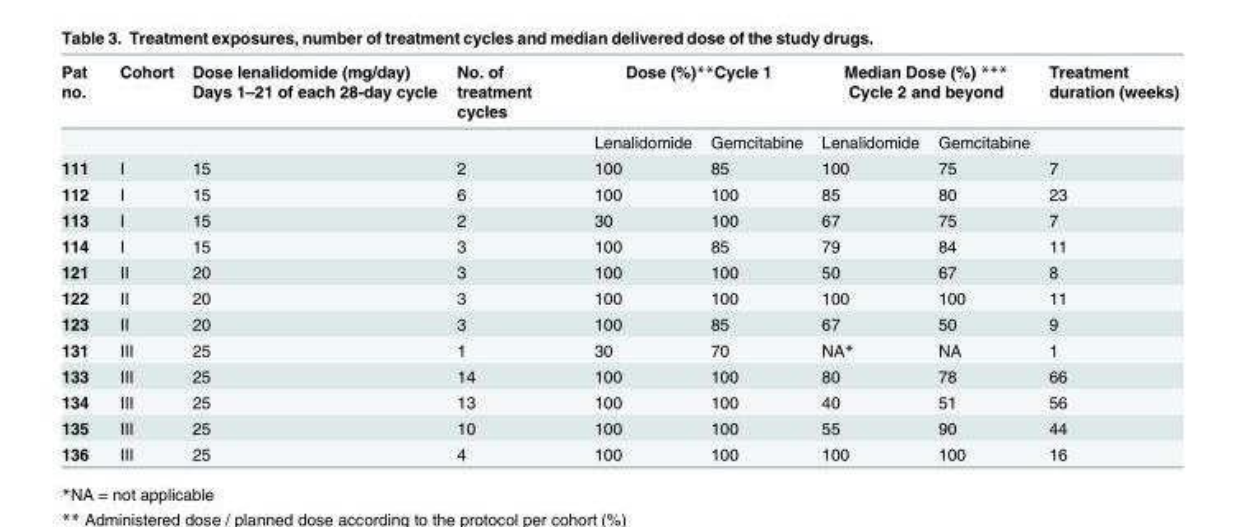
<table><thead><tr><td rowspan="2">Pat no.</td><td rowspan="2">Cohort</td><td rowspan="2">Dose lenalidomide (mg/day) Days 1–21 of each 28-day cycle</td><td rowspan="2">No. of treatment cycles</td><td colspan="2">Dose (%)**Cycle 1</td><td colspan="2">Median Dose (%) *** Cycle 2 and beyond</td><td rowspan="2">Treatment duration (weeks)</td></tr><tr><td>Lenalidomide</td><td>Gemcitabine</td><td>Lenalidomide</td><td>Gemcitabine</td></tr></thead><tbody><tr><td>111</td><td>I</td><td>15</td><td>2</td><td>100</td><td>85</td><td>100</td><td>75</td><td>7</td></tr><tr><td>112</td><td>I</td><td>15</td><td>6</td><td>100</td><td>100</td><td>85</td><td>80</td><td>23</td></tr><tr><td>113</td><td>I</td><td>15</td><td>2</td><td>30</td><td>100</td><td>67</td><td>75</td><td>7</td></tr><tr><td>114</td><td>I</td><td>15</td><td>3</td><td>100</td><td>85</td><td>79</td><td>84</td><td>11</td></tr><tr><td>121</td><td>II</td><td>20</td><td>3</td><td>100</td><td>100</td><td>50</td><td>67</td><td>8</td></tr><tr><td>122</td><td>II</td><td>20</td><td>3</td><td>100</td><td>100</td><td>100</td><td>100</td><td>11</td></tr><tr><td>123</td><td>II</td><td>20</td><td>3</td><td>100</td><td>85</td><td>67</td><td>50</td><td>9</td></tr><tr><td>131</td><td>III</td><td>25</td><td>1</td><td>30</td><td>70</td><td>NA*</td><td>NA</td><td>1</td></tr><tr><td>133</td><td>III</td><td>25</td><td>14</td><td>100</td><td>100</td><td>80</td><td>78</td><td>66</td></tr><tr><td>134</td><td>III</td><td>25</td><td>13</td><td>100</td><td>100</td><td>40</td><td>51</td><td>56</td></tr><tr><td>135</td><td>III</td><td>25</td><td>10</td><td>100</td><td>100</td><td>55</td><td>90</td><td>44</td></tr><tr><td>136</td><td>III</td><td>25</td><td>4</td><td>100</td><td>100</td><td>100</td><td>100</td><td>16</td></tr></tbody></table>